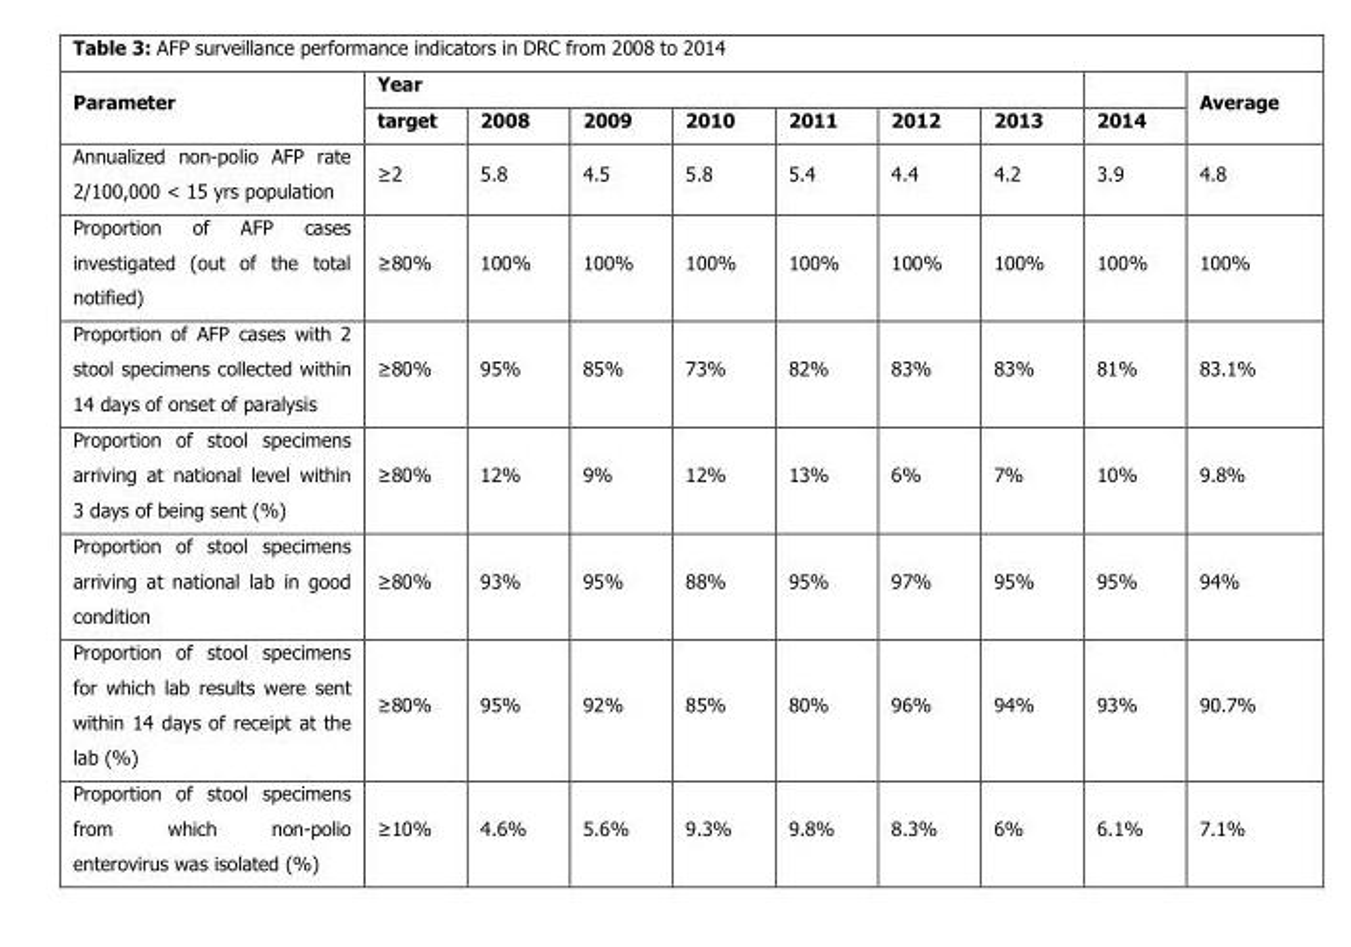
<table><thead><tr><td rowspan="2">Parameter</td><td colspan="7">Year</td><td rowspan="2">2014</td><td rowspan="2">Average</td></tr><tr><td>target</td><td>2008</td><td>2009</td><td>2010</td><td>2011</td><td>2012</td><td>2013</td></tr></thead><tbody><tr><td>Annualized non-polio AFP rate 2/100,000 &lt; 15 yrs population</td><td>≥2</td><td>5.8</td><td>4.5</td><td>5.8</td><td>5.4</td><td>4.4</td><td>4.2</td><td>3.9</td><td>4.8</td></tr><tr><td>Proportion of AFP cases investigated (out of the total notified)</td><td>≥80%</td><td>100%</td><td>100%</td><td>100%</td><td>100%</td><td>100%</td><td>100%</td><td>100%</td><td>100%</td></tr><tr><td>Proportion of AFP cases with 2 stool specimens collected within 14 days of onset of paralysis</td><td>≥80%</td><td>95%</td><td>85%</td><td>73%</td><td>82%</td><td>83%</td><td>83%</td><td>81%</td><td>83.1%</td></tr><tr><td>Proportion of stool specimens arriving at national level within 3 days of being sent (%)</td><td>≥80%</td><td>12%</td><td>9%</td><td>12%</td><td>13%</td><td>6%</td><td>7%</td><td>10%</td><td>9.8%</td></tr><tr><td>Proportion of stool specimens arriving at national lab in good condition</td><td>≥80%</td><td>93%</td><td>95%</td><td>88%</td><td>95%</td><td>97%</td><td>95%</td><td>95%</td><td>94%</td></tr><tr><td>Proportion of stool specimens for which lab results were sent within 14 days of receipt at the lab (%)</td><td>≥80%</td><td>95%</td><td>92%</td><td>85%</td><td>80%</td><td>96%</td><td>94%</td><td>93%</td><td>90.7%</td></tr><tr><td>Proportion of stool specimens from which non-polio enterovirus was isolated (%)</td><td>≥10%</td><td>4.6%</td><td>5.6%</td><td>9.3%</td><td>9.8%</td><td>8.3%</td><td>6%</td><td>6.1%</td><td>7.1%</td></tr></tbody></table>